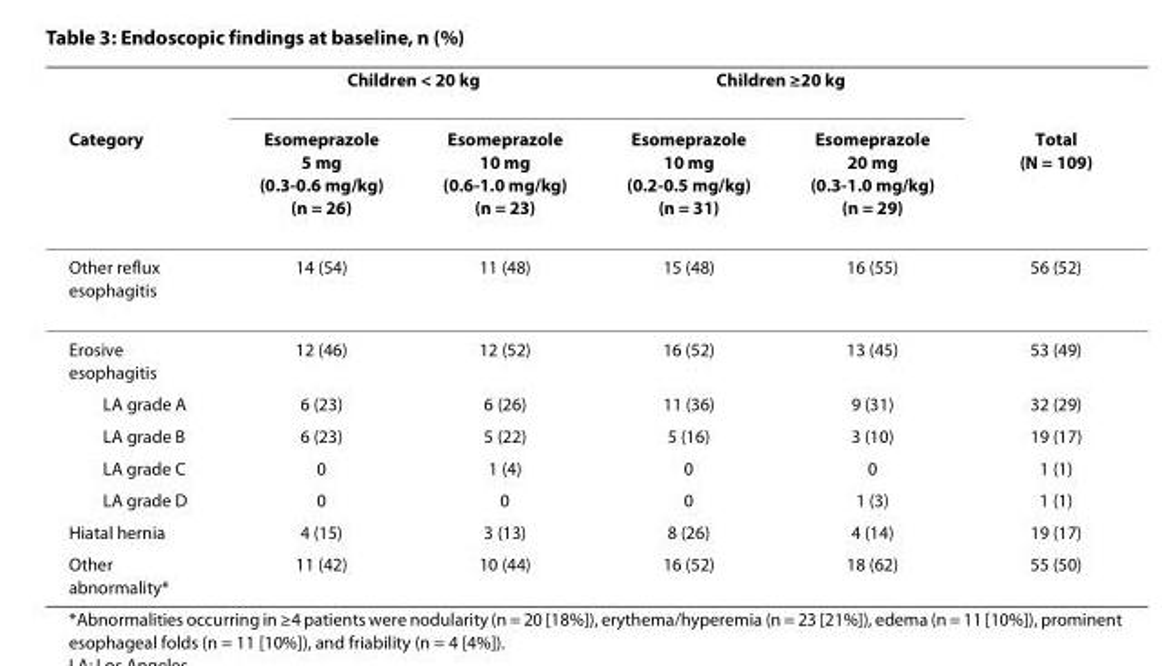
<table><thead><tr><td rowspan="2">Category</td><td colspan="2">Children &lt; 20 kg</td><td colspan="2">Children ≥20 kg</td><td rowspan="2">Total (N = 109)</td></tr><tr><td>Esomeprazole 5 mg (0.3-0.6 mg/kg) (n = 26)</td><td>Esomeprazole 10 mg (0.6-1.0 mg/kg) (n = 23)</td><td>Esomeprazole 10 mg (0.2-0.5 mg/kg) (n = 31)</td><td>Esomeprazole 20 mg (0.3-1.0 mg/kg) (n = 29)</td></tr></thead><tbody><tr><td>Other reflux esophagitis</td><td>14 (54)</td><td>11 (48)</td><td>15 (48)</td><td>16 (55)</td><td>56 (52)</td></tr><tr><td>Erosive esophagitis</td><td>12 (46)</td><td>12 (52)</td><td>16 (52)</td><td>13 (45)</td><td>53 (49)</td></tr><tr><td>LA grade A</td><td>6 (23)</td><td>6 (26)</td><td>11 (36)</td><td>9 (31)</td><td>32 (29)</td></tr><tr><td>LA grade B</td><td>6 (23)</td><td>5 (22)</td><td>5 (16)</td><td>3 (10)</td><td>19 (17)</td></tr><tr><td>LA grade C</td><td>0</td><td>1 (4)</td><td>0</td><td>0</td><td>1 (1)</td></tr><tr><td>LA grade D</td><td>0</td><td>0</td><td>0</td><td>1 (3)</td><td>1 (1)</td></tr><tr><td>Hiatal hernia</td><td>4 (15)</td><td>3 (13)</td><td>8 (26)</td><td>4 (14)</td><td>19 (17)</td></tr><tr><td>Other abnormality*</td><td>11 (42)</td><td>10 (44)</td><td>16 (52)</td><td>18 (62)</td><td>55 (50)</td></tr></tbody></table>